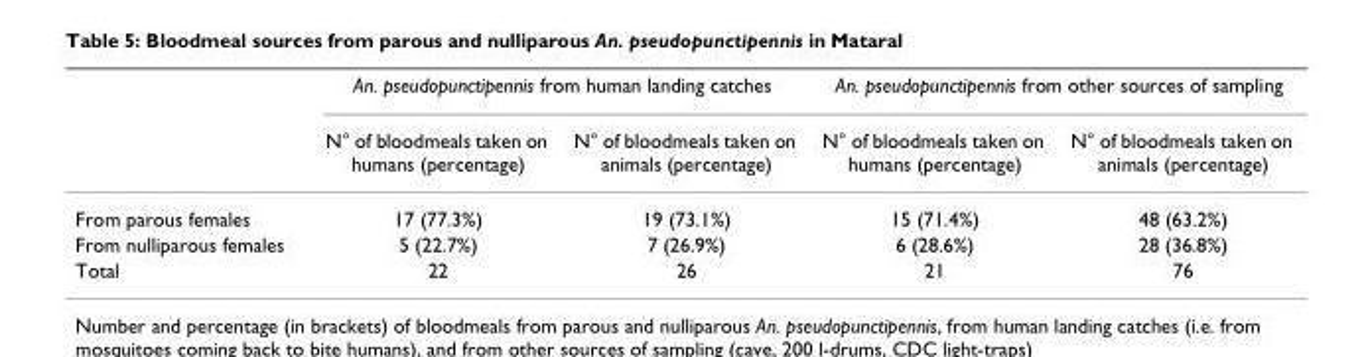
<table><thead><tr><td rowspan="2"></td><td colspan="2">An. pseudopunctipennis from human landing catches</td><td colspan="2">An. pseudopunctipennis from other sources of sampling</td></tr><tr><td>N° of bloodmeals taken on humans (percentage)</td><td>N° of bloodmeals taken on animals (percentage)</td><td>N° of bloodmeals taken on humans (percentage)</td><td>N° of bloodmeals taken on animals (percentage)</td></tr></thead><tbody><tr><td>From parous females</td><td>17 (77.3%)</td><td>19 (73.1%)</td><td>15 (71.4%)</td><td>48 (63.2%)</td></tr><tr><td>From nulliparous females</td><td>5 (22.7%)</td><td>7 (26.9%)</td><td>6 (28.6%)</td><td>28 (36.8%)</td></tr><tr><td>Total</td><td>22</td><td>26</td><td>21</td><td>76</td></tr></tbody></table>